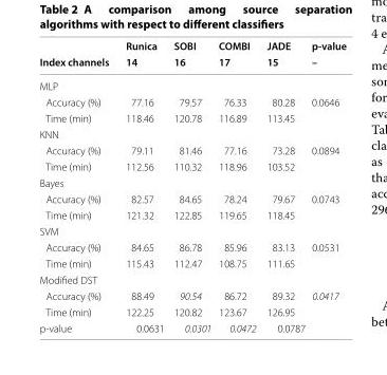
<table><thead><tr><td rowspan="2">Index channels</td><td rowspan="2">Runica 14</td><td rowspan="2">SOBI 16</td><td rowspan="2">COMBI 17</td><td rowspan="2">JADE 15</td><td rowspan="2">p-value –</td></tr><tr></tr></thead><tbody><tr><td colspan="6">MLP</td></tr><tr><td>Accuracy (%)</td><td>77.16</td><td>79.57</td><td>76.33</td><td>80.28</td><td rowspan="2">0.0646</td></tr><tr><td>Time (min)</td><td>118.46</td><td>120.78</td><td>116.89</td><td>113.45</td></tr><tr><td colspan="6">KNN</td></tr><tr><td>Accuracy (%)</td><td>79.11</td><td>81.46</td><td>77.16</td><td>73.28</td><td rowspan="2">0.0894</td></tr><tr><td>Time (min)</td><td>112.56</td><td>110.32</td><td>118.96</td><td>103.52</td></tr><tr><td colspan="6">Bayes</td></tr><tr><td>Accuracy (%)</td><td>82.57</td><td>84.65</td><td>78.24</td><td>79.67</td><td rowspan="2">0.0743</td></tr><tr><td>Time (min)</td><td>121.32</td><td>122.85</td><td>119.65</td><td>118.45</td></tr><tr><td colspan="6">SVM</td></tr><tr><td>Accuracy (%)</td><td>84.65</td><td>86.78</td><td>85.96</td><td>83.13</td><td rowspan="2">0.0531</td></tr><tr><td>Time (min)</td><td>115.43</td><td>112.47</td><td>108.75</td><td>111.65</td></tr><tr><td colspan="6">Modified DST</td></tr><tr><td>Accuracy (%)</td><td>88.49</td><td>90.54</td><td>86.72</td><td>89.32</td><td rowspan="2">0.0417</td></tr><tr><td>Time (min)</td><td>122.25</td><td>120.82</td><td>123.67</td><td>126.95</td></tr><tr><td>p-value</td><td>0.0631</td><td>0.0301</td><td>0.0472</td><td>0.0787</td><td></td></tr></tbody></table>